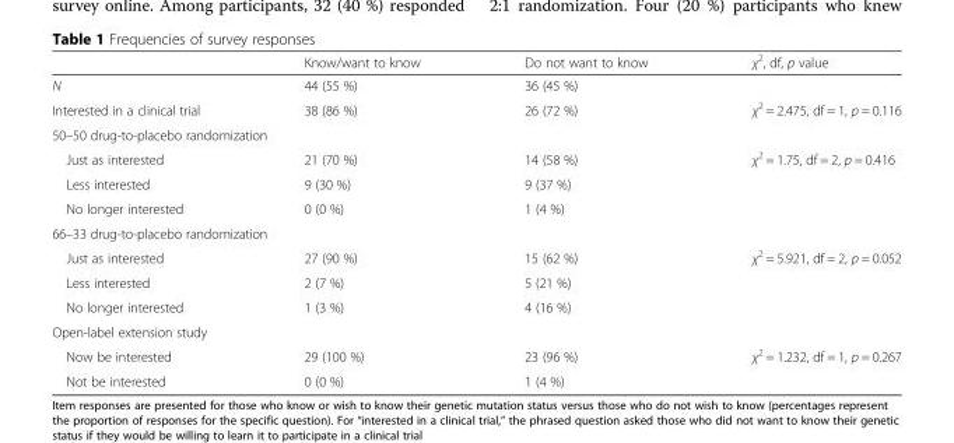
<table><thead><tr><td></td><td>Know/want to know</td><td>Do not want to know</td><td>χ<sup>2</sup>, df, p value</td></tr></thead><tbody><tr><td>N</td><td>44 (55 %)</td><td>36 (45 %)</td><td></td></tr><tr><td>Interested in a clinical trial</td><td>38 (86 %)</td><td>26 (72 %)</td><td>χ<sup>2</sup> = 2.475, df = 1, p = 0.116</td></tr><tr><td colspan="4">50–50 drug-to-placebo randomization</td></tr><tr><td>Just as interested</td><td>21 (70 %)</td><td>14 (58 %)</td><td>χ<sup>2</sup> = 1.75, df = 2, p = 0.416</td></tr><tr><td>Less interested</td><td>9 (30 %)</td><td>9 (37 %)</td><td></td></tr><tr><td>No longer interested</td><td>0 (0 %)</td><td>1 (4 %)</td><td></td></tr><tr><td colspan="4">66–33 drug-to-placebo randomization</td></tr><tr><td>Just as interested</td><td>27 (90 %)</td><td>15 (62 %)</td><td>χ<sup>2</sup> = 5.921, df = 2, p = 0.052</td></tr><tr><td>Less interested</td><td>2 (7 %)</td><td>5 (21 %)</td><td></td></tr><tr><td>No longer interested</td><td>1 (3 %)</td><td>4 (16 %)</td><td></td></tr><tr><td colspan="4">Open-label extension study</td></tr><tr><td>Now be interested</td><td>29 (100 %)</td><td>23 (96 %)</td><td>χ<sup>2</sup> = 1.232, df = 1, p = 0.267</td></tr><tr><td>Not be interested</td><td>0 (0 %)</td><td>1 (4 %)</td><td></td></tr></tbody></table>